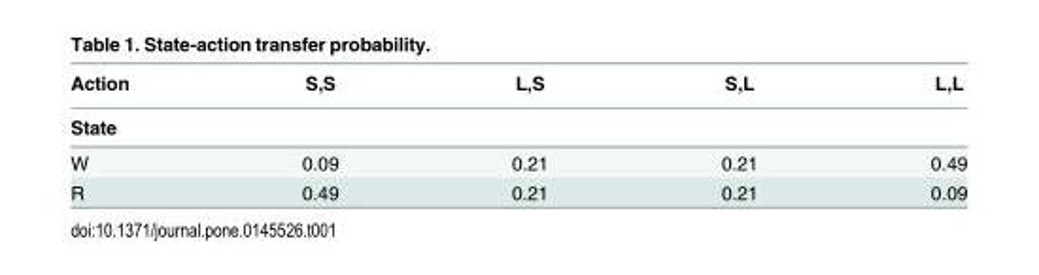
<table><thead><tr><td rowspan="2">Action State</td><td rowspan="2">S,S</td><td rowspan="2">L,S</td><td rowspan="2">S,L</td><td rowspan="2">L,L</td></tr><tr></tr></thead><tbody><tr><td>W</td><td>0.09</td><td>0.21</td><td>0.21</td><td>0.49</td></tr><tr><td>R</td><td>0.49</td><td>0.21</td><td>0.21</td><td>0.09</td></tr></tbody></table>